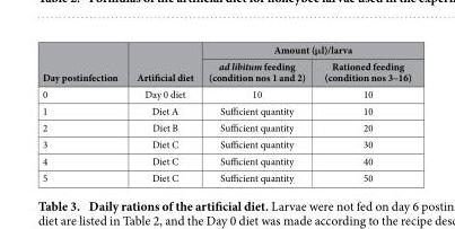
<table><thead><tr><td rowspan="2">Day postinfection</td><td rowspan="2">Artificial diet</td><td colspan="2">Amount (μl)/larva</td></tr><tr><td>ad libitum feeding (condition nos 1 and 2)</td><td>Rationed feeding (condition nos 3–16)</td></tr></thead><tbody><tr><td>0</td><td>Day 0 diet</td><td>10</td><td>10</td></tr><tr><td>1</td><td>Diet A</td><td>Sufficient quantity</td><td>10</td></tr><tr><td>2</td><td>Diet B</td><td>Sufficient quantity</td><td>20</td></tr><tr><td>3</td><td>Diet C</td><td>Sufficient quantity</td><td>30</td></tr><tr><td>4</td><td>Diet C</td><td>Sufficient quantity</td><td>40</td></tr><tr><td>5</td><td>Diet C</td><td>Sufficient quantity</td><td>50</td></tr></tbody></table>